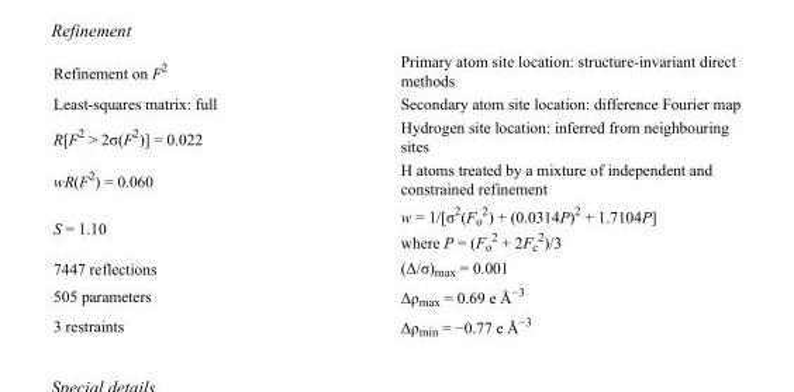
<table><tbody><tr><td>Refinement on F<sup>2</sup></td><td>Primary atom site location: structure-invariant direct methods</td></tr><tr><td>Least-squares matrix: full</td><td>Secondary atom site location: difference Fourier map</td></tr><tr><td>R[F<sup>2</sup> &gt; 2σ(F<sup>2</sup>)] = 0.022</td><td>Hydrogen site location: inferred from neighbouring sites</td></tr><tr><td>wR(F<sup>2</sup>) = 0.060</td><td>H atoms treated by a mixture of independent and constrained refinement</td></tr><tr><td>S = 1.10</td><td>w = 1/[σ<sup>2</sup>(F<sub>o</sub> <sup>2</sup>) + (0.0314P)<sup>2</sup> + 1.7104P] where P = (F<sub>o</sub> <sup>2</sup> + 2F<sub>c</sub> <sup>2</sup>)/3</td></tr><tr><td>7447 reflections</td><td>(Δ/σ)<sub>max</sub> = 0.001</td></tr><tr><td>505 parameters</td><td>Δρ<sub>max</sub> = 0.69 e Å<sup>−3</sup></td></tr><tr><td>3 restraints</td><td>Δρ<sub>min</sub> = −0.77 e Å<sup>−3</sup></td></tr></tbody></table>